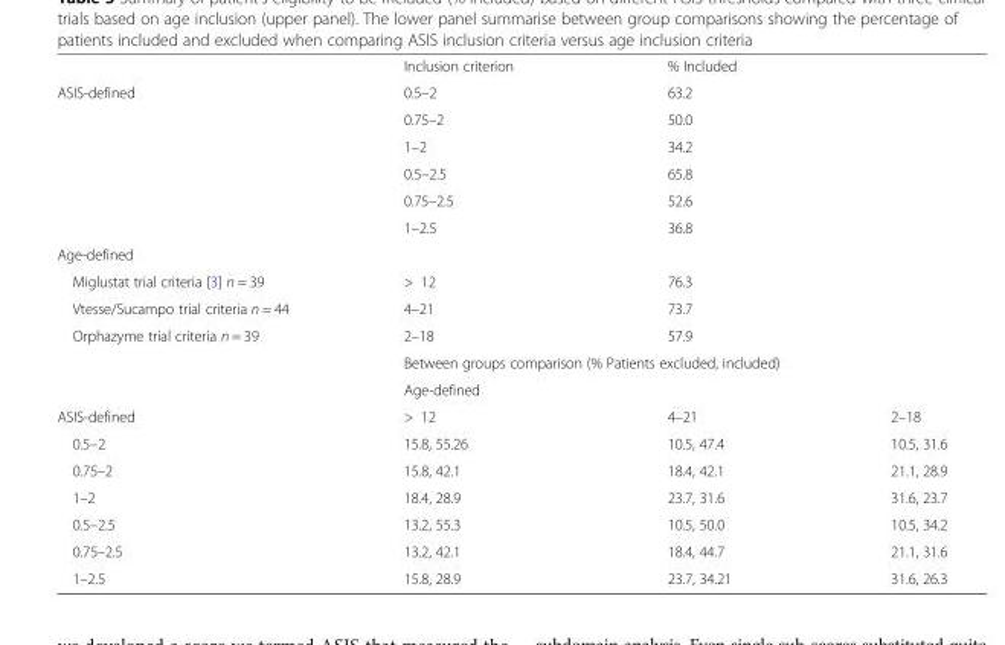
<table><thead><tr><td></td><td>Inclusion criterion</td><td>% Included</td><td></td></tr></thead><tbody><tr><td rowspan="6">ASIS-defined</td><td>0.5–2</td><td>63.2</td><td></td></tr><tr><td>0.75–2</td><td>50.0</td><td></td></tr><tr><td>1–2</td><td>34.2</td><td></td></tr><tr><td>0.5–2.5</td><td>65.8</td><td></td></tr><tr><td>0.75–2.5</td><td>52.6</td><td></td></tr><tr><td>1–2.5</td><td>36.8</td><td></td></tr><tr><td colspan="4">Age-defined</td></tr><tr><td>Miglustat trial criteria [3] n = 39</td><td>&gt; 12</td><td>76.3</td><td></td></tr><tr><td>Vtesse/Sucampo trial criteria n = 44</td><td>4–21</td><td>73.7</td><td></td></tr><tr><td rowspan="3">Orphazyme trial criteria n = 39</td><td>2–18</td><td>57.9</td><td></td></tr><tr><td colspan="3">Between groups comparison (% Patients excluded, included)</td></tr><tr><td>Age-defined</td><td></td><td></td></tr><tr><td>ASIS-defined</td><td>&gt; 12</td><td>4–21</td><td>2–18</td></tr><tr><td>0.5–2</td><td>15.8, 55.26</td><td>10.5, 47.4</td><td>10.5, 31.6</td></tr><tr><td>0.75–2</td><td>15.8, 42.1</td><td>18.4, 42.1</td><td>21.1, 28.9</td></tr><tr><td>1–2</td><td>18.4, 28.9</td><td>23.7, 31.6</td><td>31.6, 23.7</td></tr><tr><td>0.5–2.5</td><td>13.2, 55.3</td><td>10.5, 50.0</td><td>10.5, 34.2</td></tr><tr><td>0.75–2.5</td><td>13.2, 42.1</td><td>18.4, 44.7</td><td>21.1, 31.6</td></tr><tr><td>1–2.5</td><td>15.8, 28.9</td><td>23.7, 34.21</td><td>31.6, 26.3</td></tr></tbody></table>